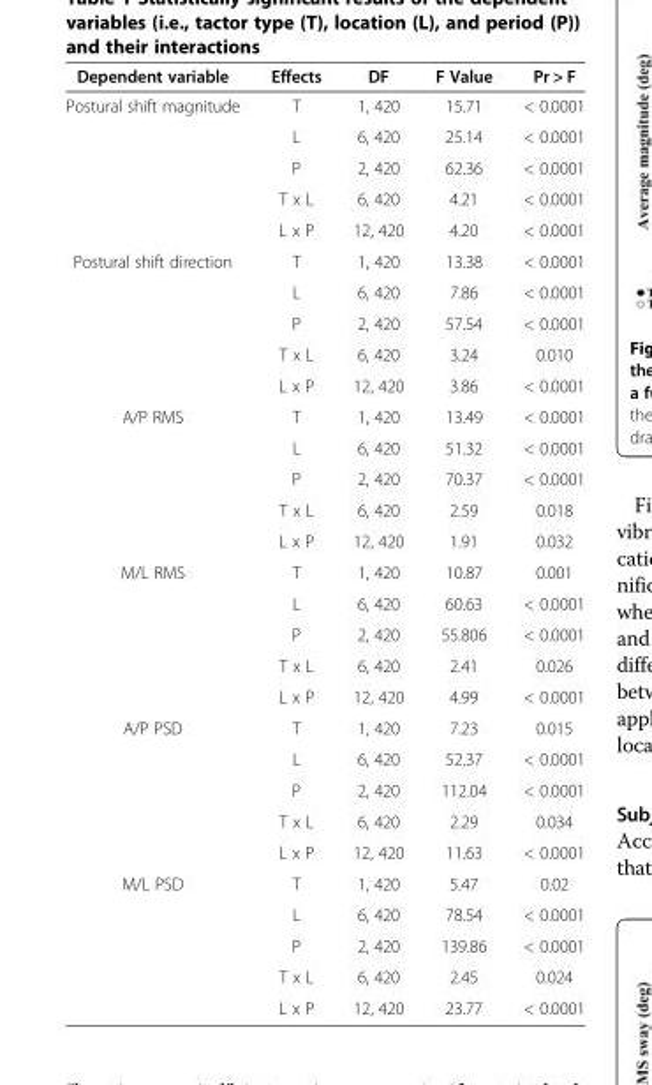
<table><thead><tr><td>Dependent variable</td><td>Effects</td><td>DF</td><td>F Value</td><td>Pr &gt; F</td></tr></thead><tbody><tr><td rowspan="5">Postural shift magnitude</td><td>T</td><td>1, 420</td><td>15.71</td><td>&lt; 0.0001</td></tr><tr><td>L</td><td>6, 420</td><td>25.14</td><td>&lt; 0.0001</td></tr><tr><td>P</td><td>2, 420</td><td>62.36</td><td>&lt; 0.0001</td></tr><tr><td>T x L</td><td>6, 420</td><td>4.21</td><td>&lt; 0.0001</td></tr><tr><td>L x P</td><td>12, 420</td><td>4.20</td><td>&lt; 0.0001</td></tr><tr><td rowspan="5">Postural shift direction</td><td>T</td><td>1, 420</td><td>13.38</td><td>&lt; 0.0001</td></tr><tr><td>L</td><td>6, 420</td><td>7.86</td><td>&lt; 0.0001</td></tr><tr><td>P</td><td>2, 420</td><td>57.54</td><td>&lt; 0.0001</td></tr><tr><td>T x L</td><td>6, 420</td><td>3.24</td><td>0.010</td></tr><tr><td>L x P</td><td>12, 420</td><td>3.86</td><td>&lt; 0.0001</td></tr><tr><td rowspan="5">A/P RMS</td><td>T</td><td>1, 420</td><td>13.49</td><td>&lt; 0.0001</td></tr><tr><td>L</td><td>6, 420</td><td>51.32</td><td>&lt; 0.0001</td></tr><tr><td>P</td><td>2, 420</td><td>70.37</td><td>&lt; 0.0001</td></tr><tr><td>T x L</td><td>6, 420</td><td>2.59</td><td>0.018</td></tr><tr><td>L x P</td><td>12, 420</td><td>1.91</td><td>0.032</td></tr><tr><td rowspan="5">M/L RMS</td><td>T</td><td>1, 420</td><td>10.87</td><td>0.001</td></tr><tr><td>L</td><td>6, 420</td><td>60.63</td><td>&lt; 0.0001</td></tr><tr><td>P</td><td>2, 420</td><td>55.806</td><td>&lt; 0.0001</td></tr><tr><td>T x L</td><td>6, 420</td><td>2.41</td><td>0.026</td></tr><tr><td>L x P</td><td>12, 420</td><td>4.99</td><td>&lt; 0.0001</td></tr><tr><td rowspan="5">A/P PSD</td><td>T</td><td>1, 420</td><td>7.23</td><td>0.015</td></tr><tr><td>L</td><td>6, 420</td><td>52.37</td><td>&lt; 0.0001</td></tr><tr><td>P</td><td>2, 420</td><td>112.04</td><td>&lt; 0.0001</td></tr><tr><td>T x L</td><td>6, 420</td><td>2.29</td><td>0.034</td></tr><tr><td>L x P</td><td>12, 420</td><td>11.63</td><td>&lt; 0.0001</td></tr><tr><td rowspan="5">M/L PSD</td><td>T</td><td>1, 420</td><td>5.47</td><td>0.02</td></tr><tr><td>L</td><td>6, 420</td><td>78.54</td><td>&lt; 0.0001</td></tr><tr><td>P</td><td>2, 420</td><td>139.86</td><td>&lt; 0.0001</td></tr><tr><td>T x L</td><td>6, 420</td><td>2.45</td><td>0.024</td></tr><tr><td>L x P</td><td>12, 420</td><td>23.77</td><td>&lt; 0.0001</td></tr></tbody></table>